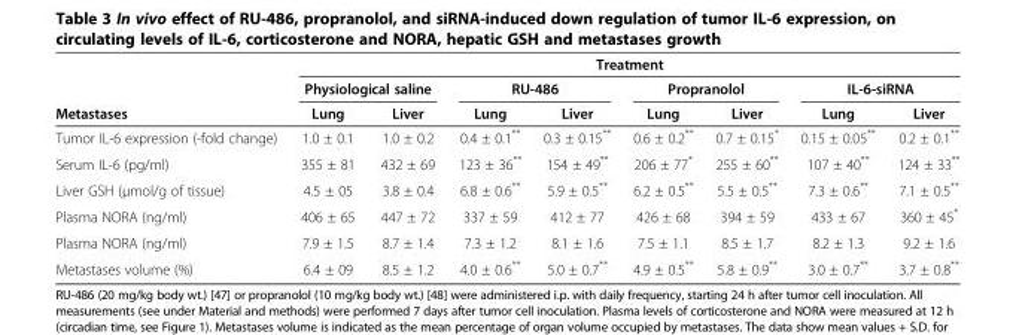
<table><thead><tr><td rowspan="3">Metastases</td><td colspan="8">Treatment</td></tr><tr><td colspan="2">Physiological saline</td><td colspan="2">RU-486</td><td colspan="2">Propranolol</td><td colspan="2">IL-6-siRNA</td></tr><tr><td>Lung</td><td>Liver</td><td>Lung</td><td>Liver</td><td>Lung</td><td>Liver</td><td>Lung</td><td>Liver</td></tr></thead><tbody><tr><td>Tumor IL-6 expression (-fold change)</td><td>1.0 ± 0.1</td><td>1.0 ± 0.2</td><td>0.4 ± 0.1**</td><td>0.3 ± 0.15**</td><td>0.6 ± 0.2**</td><td>0.7 ± 0.15*</td><td>0.15 ± 0.05**</td><td>0.2 ± 0.1**</td></tr><tr><td>Serum IL-6 (pg/ml)</td><td>355 ± 81</td><td>432 ± 69</td><td>123 ± 36**</td><td>154 ± 49**</td><td>206 ± 77*</td><td>255 ± 60**</td><td>107 ± 40**</td><td>124 ± 33**</td></tr><tr><td>Liver GSH (μmol/g of tissue)</td><td>4.5 ± 05</td><td>3.8 ± 0.4</td><td>6.8 ± 0.6**</td><td>5.9 ± 0.5**</td><td>6.2 ± 0.5**</td><td>5.5 ± 0.5**</td><td>7.3 ± 0.6**</td><td>7.1 ± 0.5**</td></tr><tr><td>Plasma NORA (ng/ml)</td><td>406 ± 65</td><td>447 ± 72</td><td>337 ± 59</td><td>412 ± 77</td><td>426 ± 68</td><td>394 ± 59</td><td>433 ± 67</td><td>360 ± 45*</td></tr><tr><td>Plasma NORA (ng/ml)</td><td>7.9 ± 1.5</td><td>8.7 ± 1.4</td><td>7.3 ± 1.2</td><td>8.1 ± 1.6</td><td>7.5 ± 1.1</td><td>8.5 ± 1.7</td><td>8.2 ± 1.3</td><td>9.2 ± 1.6</td></tr><tr><td>Metastases volume (%)</td><td>6.4 ± 09</td><td>8.5 ± 1.2</td><td>4.0 ± 0.6**</td><td>5.0 ± 0.7**</td><td>4.9 ± 0.5**</td><td>5.8 ± 0.9**</td><td>3.0 ± 0.7**</td><td>3.7 ± 0.8**</td></tr></tbody></table>